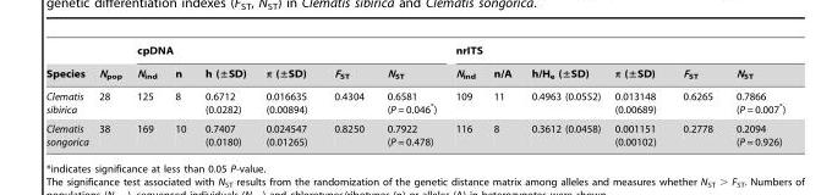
<table><thead><tr><td rowspan="2">Species</td><td rowspan="2">N<sub>pop</sub></td><td colspan="6">cpDNA</td><td colspan="6">nrITS</td></tr><tr><td>N<sub>ind</sub></td><td>n</td><td>h (±SD)</td><td>π (±SD)</td><td>F<sub>ST</sub></td><td>N<sub>ST</sub></td><td>N<sub>ind</sub></td><td>n/A</td><td>h/H<sub>e</sub> (±SD)</td><td>π (±SD)</td><td>F<sub>ST</sub></td><td>N<sub>ST</sub></td></tr></thead><tbody><tr><td>Clematis sibirica</td><td>28</td><td>125</td><td>8</td><td>0.6712 (0.0282)</td><td>0.016635 (0.00894)</td><td>0.4304</td><td>0.6581 (P = 0.046*)</td><td>109</td><td>11</td><td>0.4963 (0.0552)</td><td>0.013148 (0.00689)</td><td>0.6265</td><td>0.7866 (P = 0.007*)</td></tr><tr><td>Clematis songorica</td><td>38</td><td>169</td><td>10</td><td>0.7407 (0.0180)</td><td>0.024547 (0.01265)</td><td>0.8250</td><td>0.7922 (P = 0.478)</td><td>116</td><td>8</td><td>0.3612 (0.0458)</td><td>0.001151 (0.00102)</td><td>0.2778</td><td>0.2094 (P = 0.926)</td></tr></tbody></table>